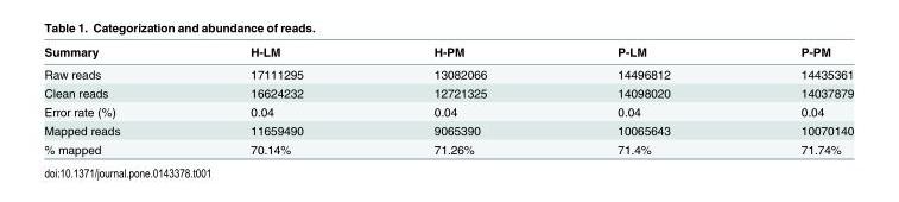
<table><thead><tr><td>Summary</td><td>H-LM</td><td>H-PM</td><td>P-LM</td><td>P-PM</td></tr></thead><tbody><tr><td>Raw reads</td><td>17111295</td><td>13082066</td><td>14496812</td><td>14435361</td></tr><tr><td>Clean reads</td><td>16624232</td><td>12721325</td><td>14098020</td><td>14037879</td></tr><tr><td>Error rate (%)</td><td>0.04</td><td>0.04</td><td>0.04</td><td>0.04</td></tr><tr><td>Mapped reads</td><td>11659490</td><td>9065390</td><td>10065643</td><td>10070140</td></tr><tr><td>% mapped</td><td>70.14%</td><td>71.26%</td><td>71.4%</td><td>71.74%</td></tr></tbody></table>